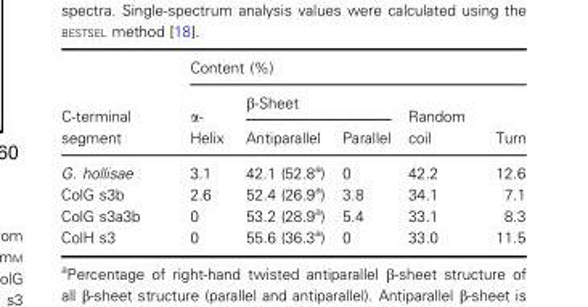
<table><thead><tr><td rowspan="3">C-terminal segment</td><td colspan="5">Content (%)</td></tr><tr><td rowspan="2">α- Helix</td><td colspan="2">β-Sheet</td><td rowspan="2">Random coil</td><td rowspan="2">Turn</td></tr><tr><td>Antiparallel</td><td>Parallel</td></tr></thead><tbody><tr><td>G. hollisae</td><td>3.1</td><td>42.1 (52.8<sup>a</sup>)</td><td>0</td><td>42.2</td><td>12.6</td></tr><tr><td>ColG s3b</td><td>2.6</td><td>52.4 (26.9<sup>a</sup>)</td><td>3.8</td><td>34.1</td><td>7.1</td></tr><tr><td>ColG s3a3b</td><td>0</td><td>53.2 (28.9<sup>a</sup>)</td><td>5.4</td><td>33.1</td><td>8.3</td></tr><tr><td>ColH s3</td><td>0</td><td>55.6 (36.3<sup>a</sup>)</td><td>0</td><td>33.0</td><td>11.5</td></tr></tbody></table>